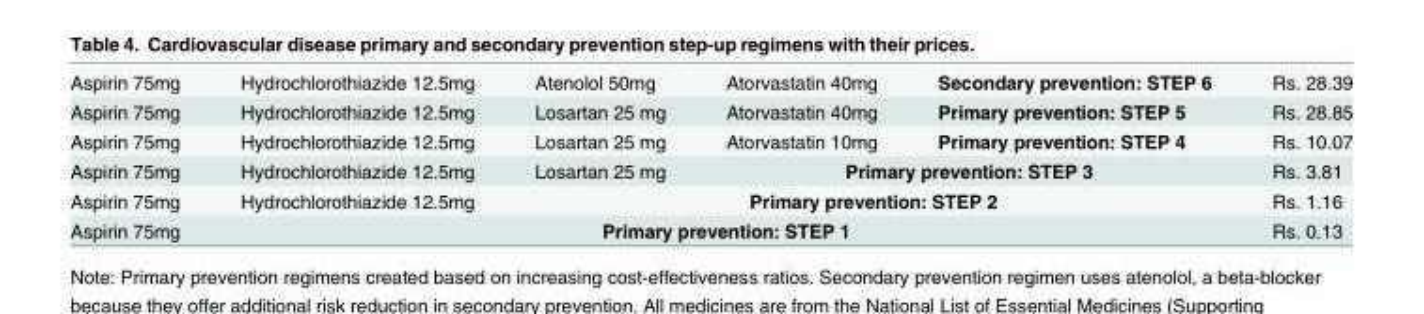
<table><tbody><tr><td>Aspirin 75mg</td><td>Hydrochlorothiazide 12.5mg</td><td>Atenolol 50mg</td><td>Atorvastatin 40mg</td><td>Secondary prevention: STEP 6</td><td>Rs. 28.39</td></tr><tr><td>Aspirin 75mg</td><td>Hydrochlorothiazide 12.5mg</td><td>Losartan 25 mg</td><td>Atorvastatin 40mg</td><td>Primary prevention: STEP 5</td><td>Rs. 28.85</td></tr><tr><td>Aspirin 75mg</td><td>Hydrochlorothiazide 12.5mg</td><td>Losartan 25 mg</td><td>Atorvastatin 10mg</td><td>Primary prevention: STEP 4</td><td>Rs. 10.07</td></tr><tr><td>Aspirin 75mg</td><td>Hydrochlorothiazide 12.5mg</td><td>Losartan 25 mg</td><td colspan="2">Primary prevention: STEP 3</td><td>Rs. 3.81</td></tr><tr><td>Aspirin 75mg</td><td>Hydrochlorothiazide 12.5mg</td><td colspan="3">Primary prevention: STEP 2</td><td>Rs. 1.16</td></tr><tr><td>Aspirin 75mg</td><td colspan="4">Primary prevention: STEP 1</td><td>Rs. 0.13</td></tr></tbody></table>